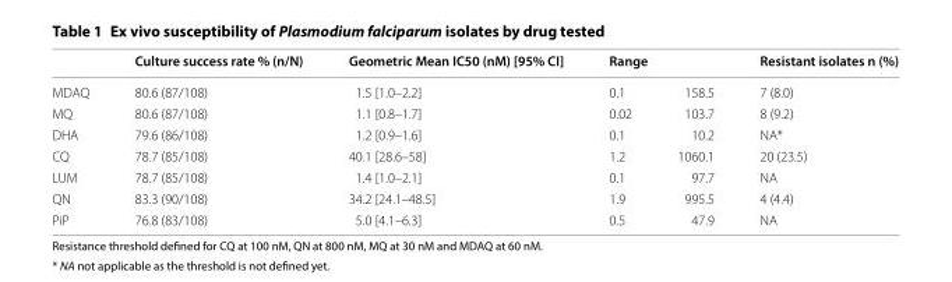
<table><thead><tr><td rowspan="2">MDAQ</td><td rowspan="2">Culture success rate % (n/N) 80.6 (87/108)</td><td rowspan="2">Geometric Mean IC50 (nM) [95% CI] 1.5 [1.0–2.2]</td><td colspan="2">Range</td><td rowspan="2">Resistant isolates n (%) 7 (8.0)</td></tr><tr><td>0.1</td><td>158.5</td></tr></thead><tbody><tr><td>MQ</td><td>80.6 (87/108)</td><td>1.1 [0.8–1.7]</td><td>0.02</td><td>103.7</td><td>8 (9.2)</td></tr><tr><td>DHA</td><td>79.6 (86/108)</td><td>1.2 [0.9–1.6]</td><td>0.1</td><td>10.2</td><td>NA*</td></tr><tr><td>CQ</td><td>78.7 (85/108)</td><td>40.1 [28.6–58]</td><td>1.2</td><td>1060.1</td><td>20 (23.5)</td></tr><tr><td>LUM</td><td>78.7 (85/108)</td><td>1.4 [1.0–2.1]</td><td>0.1</td><td>97.7</td><td>NA</td></tr><tr><td>QN</td><td>83.3 (90/108)</td><td>34.2 [24.1–48.5]</td><td>1.9</td><td>995.5</td><td>4 (4.4)</td></tr><tr><td>PiP</td><td>76.8 (83/108)</td><td>5.0 [4.1–6.3]</td><td>0.5</td><td>47.9</td><td>NA</td></tr></tbody></table>